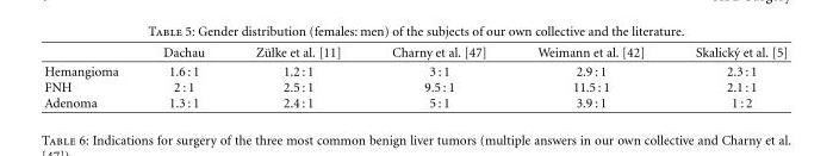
<table><thead><tr><td></td><td>Dachau</td><td>Z¨ulke et al. [11]</td><td>Charny et al. [47]</td><td>Weimann et al. [42]</td><td>Skalick´y et al. [5]</td></tr></thead><tbody><tr><td>Hemangioma</td><td>1.6 : 1</td><td>1.2 : 1</td><td>3 : 1</td><td>2.9 : 1</td><td>2.3 : 1</td></tr><tr><td>FNH</td><td>2 : 1</td><td>2.5 : 1</td><td>9.5 : 1</td><td>11.5 : 1</td><td>2.1 : 1</td></tr><tr><td>Adenoma</td><td>1.3 : 1</td><td>2.4 : 1</td><td>5 : 1</td><td>3.9 : 1</td><td>1 : 2</td></tr></tbody></table>